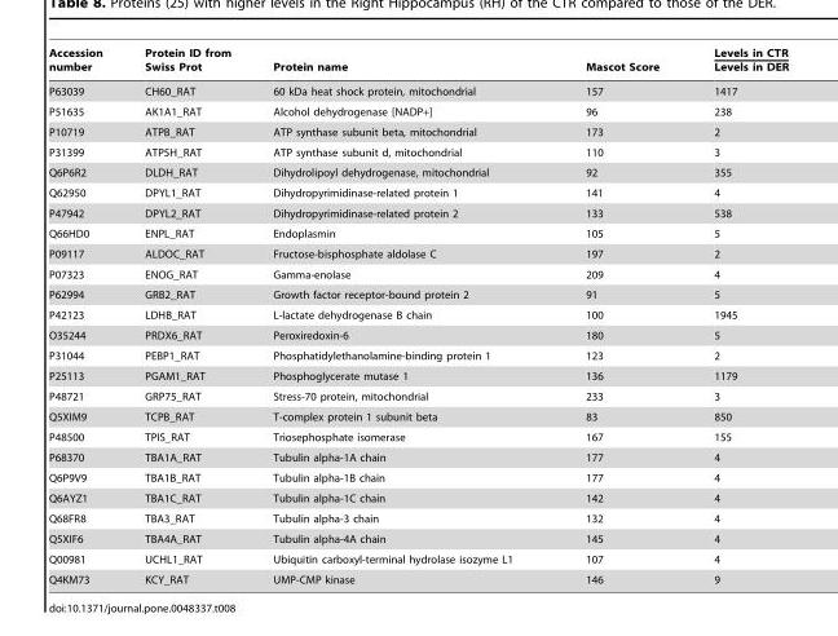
<table><thead><tr><td>Accession number</td><td>Protein ID from Swiss Prot</td><td>Protein name</td><td>Mascot Score</td><td>Levels in CTR Levels in DER</td></tr></thead><tbody><tr><td>P63039</td><td>CH60_RAT</td><td>60 kDa heat shock protein, mitochondrial</td><td>157</td><td>1417</td></tr><tr><td>P51635</td><td>AK1A1_RAT</td><td>Alcohol dehydrogenase [NADP+]</td><td>96</td><td>238</td></tr><tr><td>P10719</td><td>ATPB_RAT</td><td>ATP synthase subunit beta, mitochondrial</td><td>173</td><td>2</td></tr><tr><td>P31399</td><td>ATP5H_RAT</td><td>ATP synthase subunit d, mitochondrial</td><td>110</td><td>3</td></tr><tr><td>Q6P6R2</td><td>DLDH_RAT</td><td>Dihydrolipoyl dehydrogenase, mitochondrial</td><td>92</td><td>355</td></tr><tr><td>Q62950</td><td>DPYL1_RAT</td><td>Dihydropyrimidinase-related protein 1</td><td>141</td><td>4</td></tr><tr><td>P47942</td><td>DPYL2_RAT</td><td>Dihydropyrimidinase-related protein 2</td><td>133</td><td>538</td></tr><tr><td>Q66HD0</td><td>ENPL_RAT</td><td>Endoplasmin</td><td>105</td><td>5</td></tr><tr><td>P09117</td><td>ALDOC_RAT</td><td>Fructose-bisphosphate aldolase C</td><td>197</td><td>2</td></tr><tr><td>P07323</td><td>ENOG_RAT</td><td>Gamma-enolase</td><td>209</td><td>4</td></tr><tr><td>P62994</td><td>GRB2_RAT</td><td>Growth factor receptor-bound protein 2</td><td>91</td><td>5</td></tr><tr><td>P42123</td><td>LDHB_RAT</td><td>L-lactate dehydrogenase B chain</td><td>100</td><td>1945</td></tr><tr><td>O35244</td><td>PRDX6_RAT</td><td>Peroxiredoxin-6</td><td>180</td><td>5</td></tr><tr><td>P31044</td><td>PEBP1_RAT</td><td>Phosphatidylethanolamine-binding protein 1</td><td>123</td><td>2</td></tr><tr><td>P25113</td><td>PGAM1_RAT</td><td>Phosphoglycerate mutase 1</td><td>136</td><td>1179</td></tr><tr><td>P48721</td><td>GRP75_RAT</td><td>Stress-70 protein, mitochondrial</td><td>233</td><td>3</td></tr><tr><td>Q5XIM9</td><td>TCPB_RAT</td><td>T-complex protein 1 subunit beta</td><td>83</td><td>850</td></tr><tr><td>P48500</td><td>TPIS_RAT</td><td>Triosephosphate isomerase</td><td>167</td><td>155</td></tr><tr><td>P68370</td><td>TBA1A_RAT</td><td>Tubulin alpha-1A chain</td><td>177</td><td>4</td></tr><tr><td>Q6P9V9</td><td>TBA1B_RAT</td><td>Tubulin alpha-1B chain</td><td>177</td><td>4</td></tr><tr><td>Q6AYZ1</td><td>TBA1C_RAT</td><td>Tubulin alpha-1C chain</td><td>142</td><td>4</td></tr><tr><td>Q68FR8</td><td>TBA3_RAT</td><td>Tubulin alpha-3 chain</td><td>132</td><td>4</td></tr><tr><td>Q5XIF6</td><td>TBA4A_RAT</td><td>Tubulin alpha-4A chain</td><td>145</td><td>4</td></tr><tr><td>Q00981</td><td>UCHL1_RAT</td><td>Ubiquitin carboxyl-terminal hydrolase isozyme L1</td><td>107</td><td>4</td></tr><tr><td>Q4KM73</td><td>KCY_RAT</td><td>UMP-CMP kinase</td><td>146</td><td>9</td></tr></tbody></table>